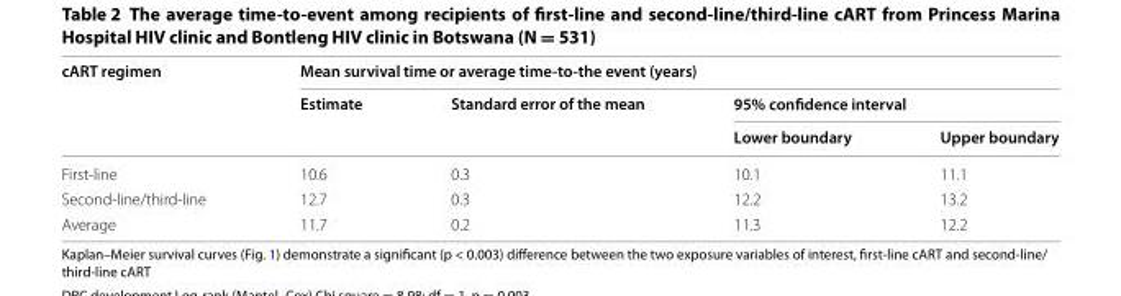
<table><thead><tr><td rowspan="3">cART regimen</td><td colspan="4">Mean survival time or average time-to-the event (years)</td></tr><tr><td rowspan="2">Estimate</td><td rowspan="2">Standard error of the mean</td><td colspan="2">95% confidence interval</td></tr><tr><td>Lower boundary</td><td>Upper boundary</td></tr></thead><tbody><tr><td>First‑line</td><td>10.6</td><td>0.3</td><td>10.1</td><td>11.1</td></tr><tr><td>Second‑line/third‑line</td><td>12.7</td><td>0.3</td><td>12.2</td><td>13.2</td></tr><tr><td>Average</td><td>11.7</td><td>0.2</td><td>11.3</td><td>12.2</td></tr></tbody></table>